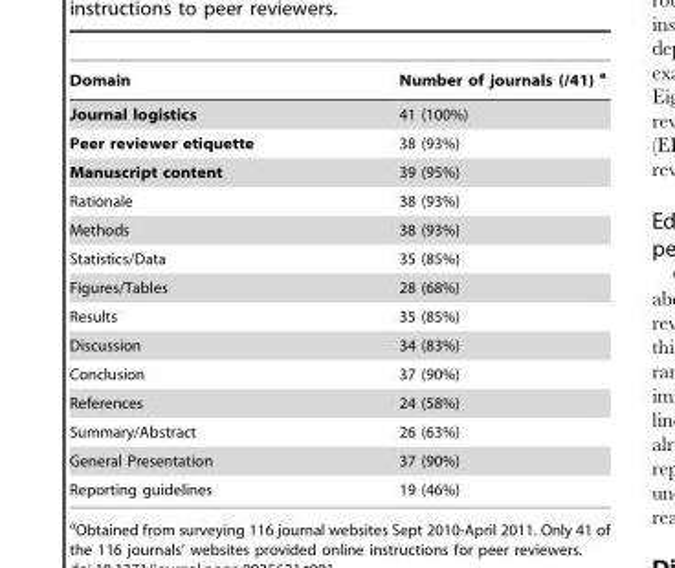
<table><thead><tr><td>Domain</td><td>Number of journals (/41) a</td></tr></thead><tbody><tr><td>Journal logistics</td><td>41 (100%)</td></tr><tr><td>Peer reviewer etiquette</td><td>38 (93%)</td></tr><tr><td>Manuscript content</td><td>39 (95%)</td></tr><tr><td>Rationale</td><td>38 (93%)</td></tr><tr><td>Methods</td><td>38 (93%)</td></tr><tr><td>Statistics/Data</td><td>35 (85%)</td></tr><tr><td>Figures/Tables</td><td>28 (68%)</td></tr><tr><td>Results</td><td>35 (85%)</td></tr><tr><td>Discussion</td><td>34 (83%)</td></tr><tr><td>Conclusion</td><td>37 (90%)</td></tr><tr><td>References</td><td>24 (58%)</td></tr><tr><td>Summary/Abstract</td><td>26 (63%)</td></tr><tr><td>General Presentation</td><td>37 (90%)</td></tr><tr><td>Reporting guidelines</td><td>19 (46%)</td></tr></tbody></table>